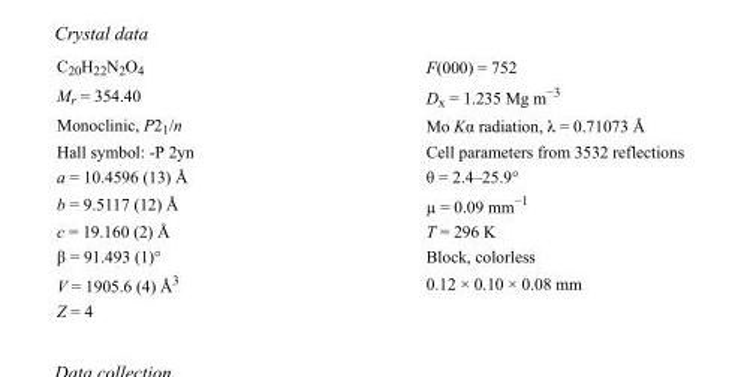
<table><tbody><tr><td>C<sub>20</sub>H<sub>22</sub>N<sub>2</sub>O<sub>4</sub></td><td>F(000) = 752</td></tr><tr><td>M<sub>r</sub> = 354.40</td><td>D<sub>x</sub> = 1.235 Mg m<sup>−3</sup></td></tr><tr><td>Monoclinic, P2<sub>1</sub>/n</td><td>Mo Kα radiation, λ = 0.71073 Å</td></tr><tr><td>Hall symbol: -P 2yn</td><td>Cell parameters from 3532 reflections</td></tr><tr><td>a = 10.4596 (13) Å</td><td>θ = 2.4–25.9°</td></tr><tr><td>b = 9.5117 (12) Å</td><td>µ = 0.09 mm<sup>−1</sup></td></tr><tr><td>c = 19.160 (2) Å</td><td>T = 296 K</td></tr><tr><td>β = 91.493 (1)°</td><td>Block, colorless</td></tr><tr><td>V = 1905.6 (4) Å<sup>3</sup></td><td>0.12 × 0.10 × 0.08 mm</td></tr><tr><td>Z = 4</td><td></td></tr></tbody></table>